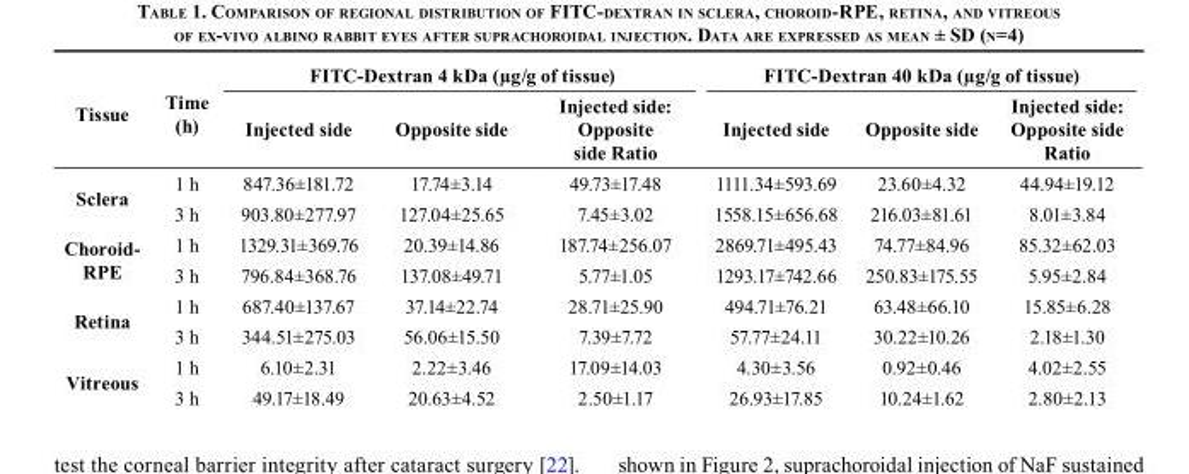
<table><thead><tr><td rowspan="2">Tissue</td><td rowspan="2">Time (h)</td><td colspan="3">FITC-Dextran 4 kDa (µg/g of tissue)</td><td colspan="3">FITC-Dextran 40 kDa (µg/g of tissue)</td></tr><tr><td>Injected side</td><td>Opposite side</td><td>Injected side: Opposite side Ratio</td><td>Injected side</td><td>Opposite side</td><td>Injected side: Opposite side Ratio</td></tr></thead><tbody><tr><td rowspan="2">Sclera</td><td>1 h</td><td>847.36±181.72</td><td>17.74±3.14</td><td>49.73±17.48</td><td>1111.34±593.69</td><td>23.60±4.32</td><td>44.94±19.12</td></tr><tr><td>3 h</td><td>903.80±277.97</td><td>127.04±25.65</td><td>7.45±3.02</td><td>1558.15±656.68</td><td>216.03±81.61</td><td>8.01±3.84</td></tr><tr><td rowspan="2">Choroid- RPE</td><td>1 h</td><td>1329.31±369.76</td><td>20.39±14.86</td><td>187.74±256.07</td><td>2869.71±495.43</td><td>74.77±84.96</td><td>85.32±62.03</td></tr><tr><td>3 h</td><td>796.84±368.76</td><td>137.08±49.71</td><td>5.77±1.05</td><td>1293.17±742.66</td><td>250.83±175.55</td><td>5.95±2.84</td></tr><tr><td rowspan="2">Retina</td><td>1 h</td><td>687.40±137.67</td><td>37.14±22.74</td><td>28.71±25.90</td><td>494.71±76.21</td><td>63.48±66.10</td><td>15.85±6.28</td></tr><tr><td>3 h</td><td>344.51±275.03</td><td>56.06±15.50</td><td>7.39±7.72</td><td>57.77±24.11</td><td>30.22±10.26</td><td>2.18±1.30</td></tr><tr><td rowspan="2">Vitreous</td><td>1 h</td><td>6.10±2.31</td><td>2.22±3.46</td><td>17.09±14.03</td><td>4.30±3.56</td><td>0.92±0.46</td><td>4.02±2.55</td></tr><tr><td>3 h</td><td>49.17±18.49</td><td>20.63±4.52</td><td>2.50±1.17</td><td>26.93±17.85</td><td>10.24±1.62</td><td>2.80±2.13</td></tr></tbody></table>